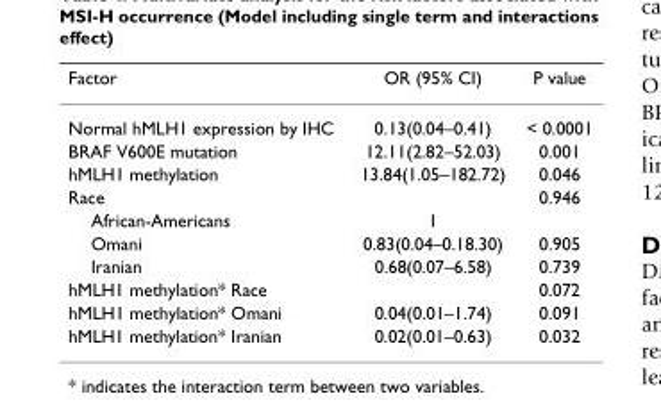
<table><thead><tr><td>Factor</td><td>OR (95% CI)</td><td>P value</td></tr></thead><tbody><tr><td>Normal hMLH1 expression by IHC</td><td>0.13(0.04–0.41)</td><td>&lt; 0.0001</td></tr><tr><td>BRAF V600E mutation</td><td>12.11(2.82–52.03)</td><td>0.001</td></tr><tr><td>hMLH1 methylation</td><td>13.84(1.05–182.72)</td><td>0.046</td></tr><tr><td>Race</td><td></td><td>0.946</td></tr><tr><td>African-Americans</td><td>1</td><td></td></tr><tr><td>Omani</td><td>0.83(0.04–0.18.30)</td><td>0.905</td></tr><tr><td>Iranian</td><td>0.68(0.07–6.58)</td><td>0.739</td></tr><tr><td>hMLH1 methylation* Race</td><td></td><td>0.072</td></tr><tr><td>hMLH1 methylation* Omani</td><td>0.04(0.01–1.74)</td><td>0.091</td></tr><tr><td>hMLH1 methylation* Iranian</td><td>0.02(0.01–0.63)</td><td>0.032</td></tr></tbody></table>